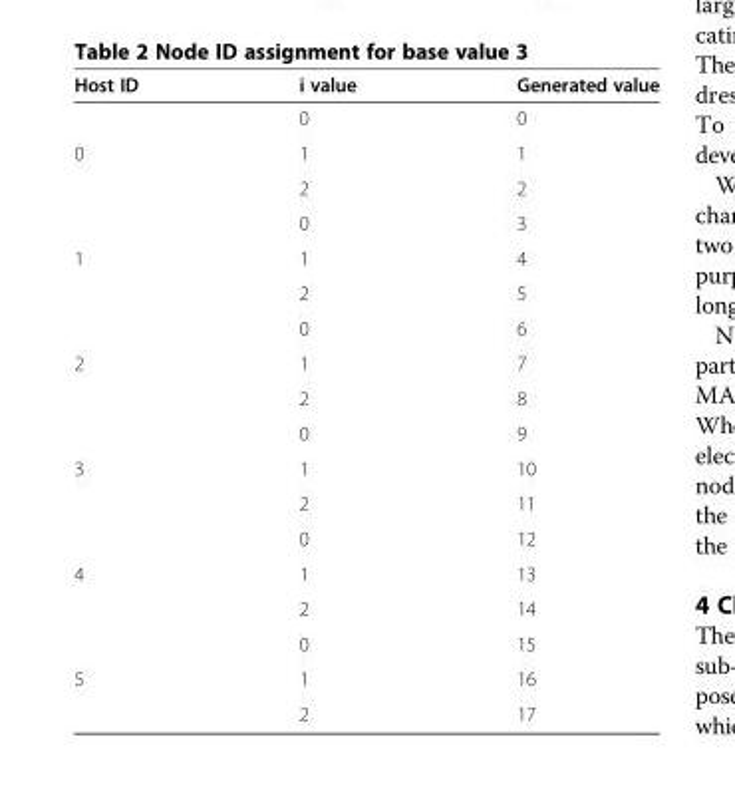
<table><thead><tr><td>Host ID</td><td>i value</td><td>Generated value</td></tr></thead><tbody><tr><td rowspan="3">0</td><td>0</td><td>0</td></tr><tr><td>1</td><td>1</td></tr><tr><td>2</td><td>2</td></tr><tr><td rowspan="3">1</td><td>0</td><td>3</td></tr><tr><td>1</td><td>4</td></tr><tr><td>2</td><td>5</td></tr><tr><td rowspan="3">2</td><td>0</td><td>6</td></tr><tr><td>1</td><td>7</td></tr><tr><td>2</td><td>8</td></tr><tr><td rowspan="3">3</td><td>0</td><td>9</td></tr><tr><td>1</td><td>10</td></tr><tr><td>2</td><td>11</td></tr><tr><td rowspan="3">4</td><td>0</td><td>12</td></tr><tr><td>1</td><td>13</td></tr><tr><td>2</td><td>14</td></tr><tr><td rowspan="3">5</td><td>0</td><td>15</td></tr><tr><td>1</td><td>16</td></tr><tr><td>2</td><td>17</td></tr></tbody></table>